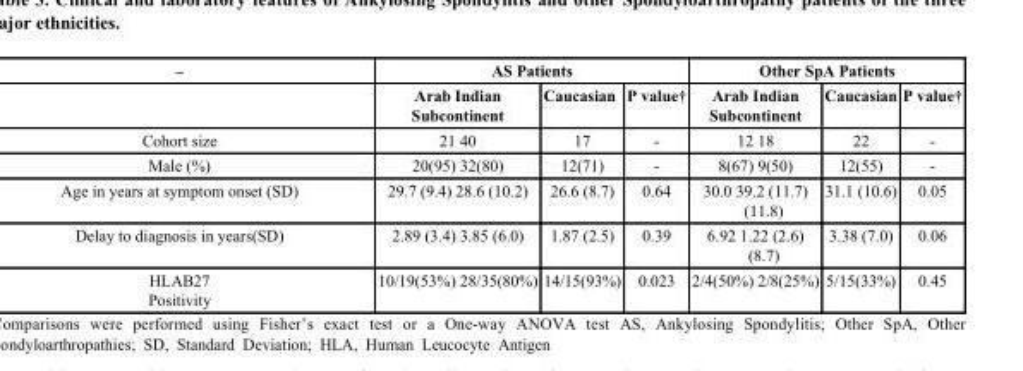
<table><thead><tr><td rowspan="2">–</td><td colspan="3">AS Patients</td><td colspan="3">Other SpA Patients</td></tr><tr><td>Arab Indian Subcontinent</td><td>Caucasian</td><td>P value†</td><td>Arab Indian Subcontinent</td><td>Caucasian</td><td>P value†</td></tr></thead><tbody><tr><td>Cohort size</td><td>21 40</td><td>17</td><td>-</td><td>12 18</td><td>22</td><td>-</td></tr><tr><td>Male (%)</td><td>20(95) 32(80)</td><td>12(71)</td><td>-</td><td>8(67) 9(50)</td><td>12(55)</td><td>-</td></tr><tr><td>Age in years at symptom onset (SD)</td><td>29.7 (9.4) 28.6 (10.2)</td><td>26.6 (8.7)</td><td>0.64</td><td>30.0 39.2 (11.7) (11.8)</td><td>31.1 (10.6)</td><td>0.05</td></tr><tr><td>Delay to diagnosis in years(SD)</td><td>2.89 (3.4) 3.85 (6.0)</td><td>1.87 (2.5)</td><td>0.39</td><td>6.92 1.22 (2.6) (8.7)</td><td>3.38 (7.0)</td><td>0.06</td></tr><tr><td>HLAB27 Positivity</td><td>10/19(53%) 28/35(80%)</td><td>14/15(93%)</td><td>0.023</td><td>2/4(50%) 2/8(25%)</td><td>5/15(33%)</td><td>0.45</td></tr></tbody></table>